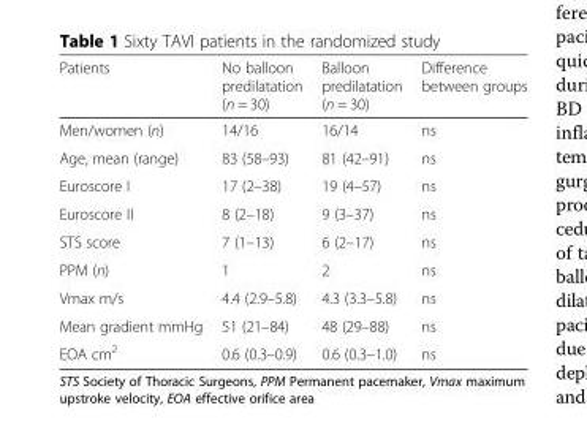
<table><thead><tr><td>Patients</td><td>No balloon predilatation (n = 30)</td><td>Balloon predilatation (n = 30)</td><td>Difference between groups</td></tr></thead><tbody><tr><td>Men/women (n)</td><td>14/16</td><td>16/14</td><td>ns</td></tr><tr><td>Age, mean (range)</td><td>83 (58–93)</td><td>81 (42–91)</td><td>ns</td></tr><tr><td>Euroscore I</td><td>17 (2–38)</td><td>19 (4–57)</td><td>ns</td></tr><tr><td>Euroscore II</td><td>8 (2–18)</td><td>9 (3–37)</td><td>ns</td></tr><tr><td>STS score</td><td>7 (1–13)</td><td>6 (2–17)</td><td>ns</td></tr><tr><td>PPM (n)</td><td>1</td><td>2</td><td>ns</td></tr><tr><td>Vmax m/s</td><td>4.4 (2.9–5.8)</td><td>4.3 (3.3–5.8)</td><td>ns</td></tr><tr><td>Mean gradient mmHg</td><td>51 (21–84)</td><td>48 (29–88)</td><td>ns</td></tr><tr><td>EOA cm<sup>2</sup></td><td>0.6 (0.3–0.9)</td><td>0.6 (0.3–1.0)</td><td>ns</td></tr></tbody></table>